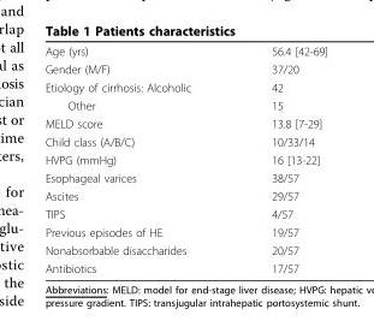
<table><tbody><tr><td>Age (yrs)</td><td>56.4 [42-69]</td></tr><tr><td>Gender (M/F)</td><td>37/20</td></tr><tr><td>Etiology of cirrhosis: Alcoholic</td><td>42</td></tr><tr><td>Other</td><td>15</td></tr><tr><td>MELD score</td><td>13.8 [7-29]</td></tr><tr><td>Child class (A/B/C)</td><td>10/33/14</td></tr><tr><td>HVPG (mmHg)</td><td>16 [13-22]</td></tr><tr><td>Esophageal varices</td><td>38/57</td></tr><tr><td>Ascites</td><td>29/57</td></tr><tr><td>TIPS</td><td>4/57</td></tr><tr><td>Previous episodes of HE</td><td>19/57</td></tr><tr><td>Nonabsorbable disaccharides</td><td>20/57</td></tr><tr><td>Antibiotics</td><td>17/57</td></tr></tbody></table>